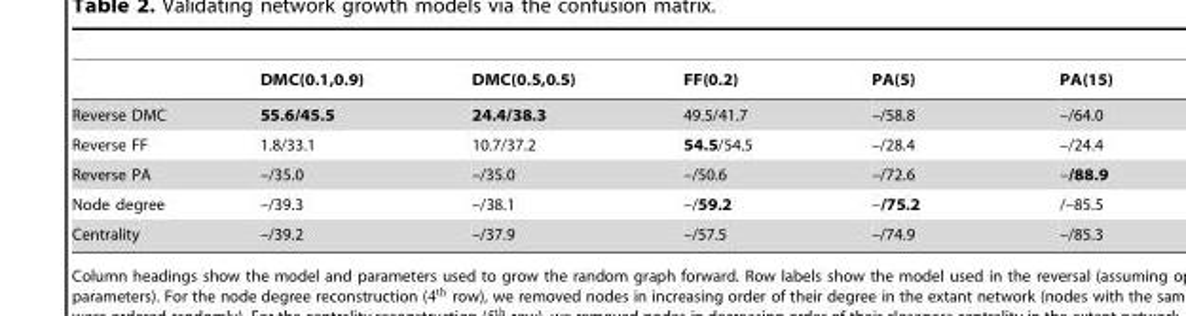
<table><thead><tr><td></td><td>DMC(0.1,0.9)</td><td>DMC(0.5,0.5)</td><td>FF(0.2)</td><td>PA(5)</td><td>PA(15)</td></tr></thead><tbody><tr><td>Reverse DMC</td><td>55.6/45.5</td><td>24.4/38.3</td><td>49.5/41.7</td><td>–/58.8</td><td>–/64.0</td></tr><tr><td>Reverse FF</td><td>1.8/33.1</td><td>10.7/37.2</td><td>54.5/54.5</td><td>–/28.4</td><td>–/24.4</td></tr><tr><td>Reverse PA</td><td>–/35.0</td><td>–/35.0</td><td>–/50.6</td><td>–/72.6</td><td>–/88.9</td></tr><tr><td>Node degree</td><td>–/39.3</td><td>–/38.1</td><td>–/59.2</td><td>–/75.2</td><td>/–85.5</td></tr><tr><td>Centrality</td><td>–/39.2</td><td>–/37.9</td><td>–/57.5</td><td>–/74.9</td><td>–/85.3</td></tr></tbody></table>